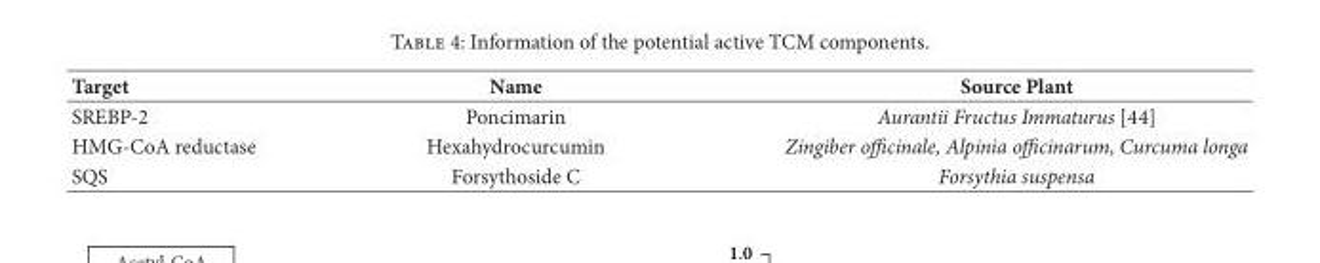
<table><thead><tr><td>Target</td><td>Name</td><td>Source Plant</td></tr></thead><tbody><tr><td>SREBP-2</td><td>Poncimarin</td><td>Aurantii Fructus Immaturus [44]</td></tr><tr><td>HMG-CoA reductase</td><td>Hexahydrocurcumin</td><td>Zingiber officinale, Alpinia officinarum, Curcuma longa</td></tr><tr><td>SQS</td><td>Forsythoside C</td><td>Forsythia suspensa</td></tr></tbody></table>